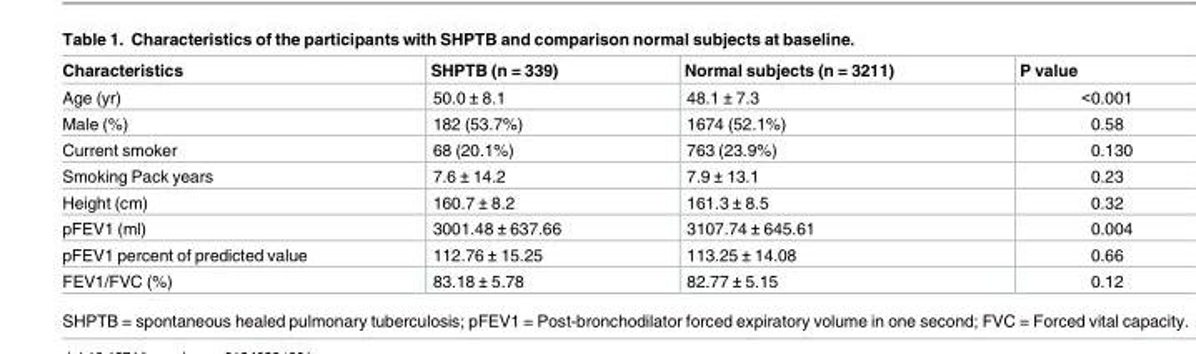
<table><thead><tr><td>Characteristics</td><td>SHPTB (n = 339)</td><td>Normal subjects (n = 3211)</td><td>P value</td></tr></thead><tbody><tr><td>Age (yr)</td><td>50.0 ± 8.1</td><td>48.1 ± 7.3</td><td>&lt;0.001</td></tr><tr><td>Male (%)</td><td>182 (53.7%)</td><td>1674 (52.1%)</td><td>0.58</td></tr><tr><td>Current smoker</td><td>68 (20.1%)</td><td>763 (23.9%)</td><td>0.130</td></tr><tr><td>Smoking Pack years</td><td>7.6 ± 14.2</td><td>7.9 ± 13.1</td><td>0.23</td></tr><tr><td>Height (cm)</td><td>160.7 ± 8.2</td><td>161.3 ± 8.5</td><td>0.32</td></tr><tr><td>pFEV1 (ml)</td><td>3001.48 ± 637.66</td><td>3107.74 ± 645.61</td><td>0.004</td></tr><tr><td>pFEV1 percent of predicted value</td><td>112.76 ± 15.25</td><td>113.25 ± 14.08</td><td>0.66</td></tr><tr><td>FEV1/FVC (%)</td><td>83.18 ± 5.78</td><td>82.77 ± 5.15</td><td>0.12</td></tr></tbody></table>